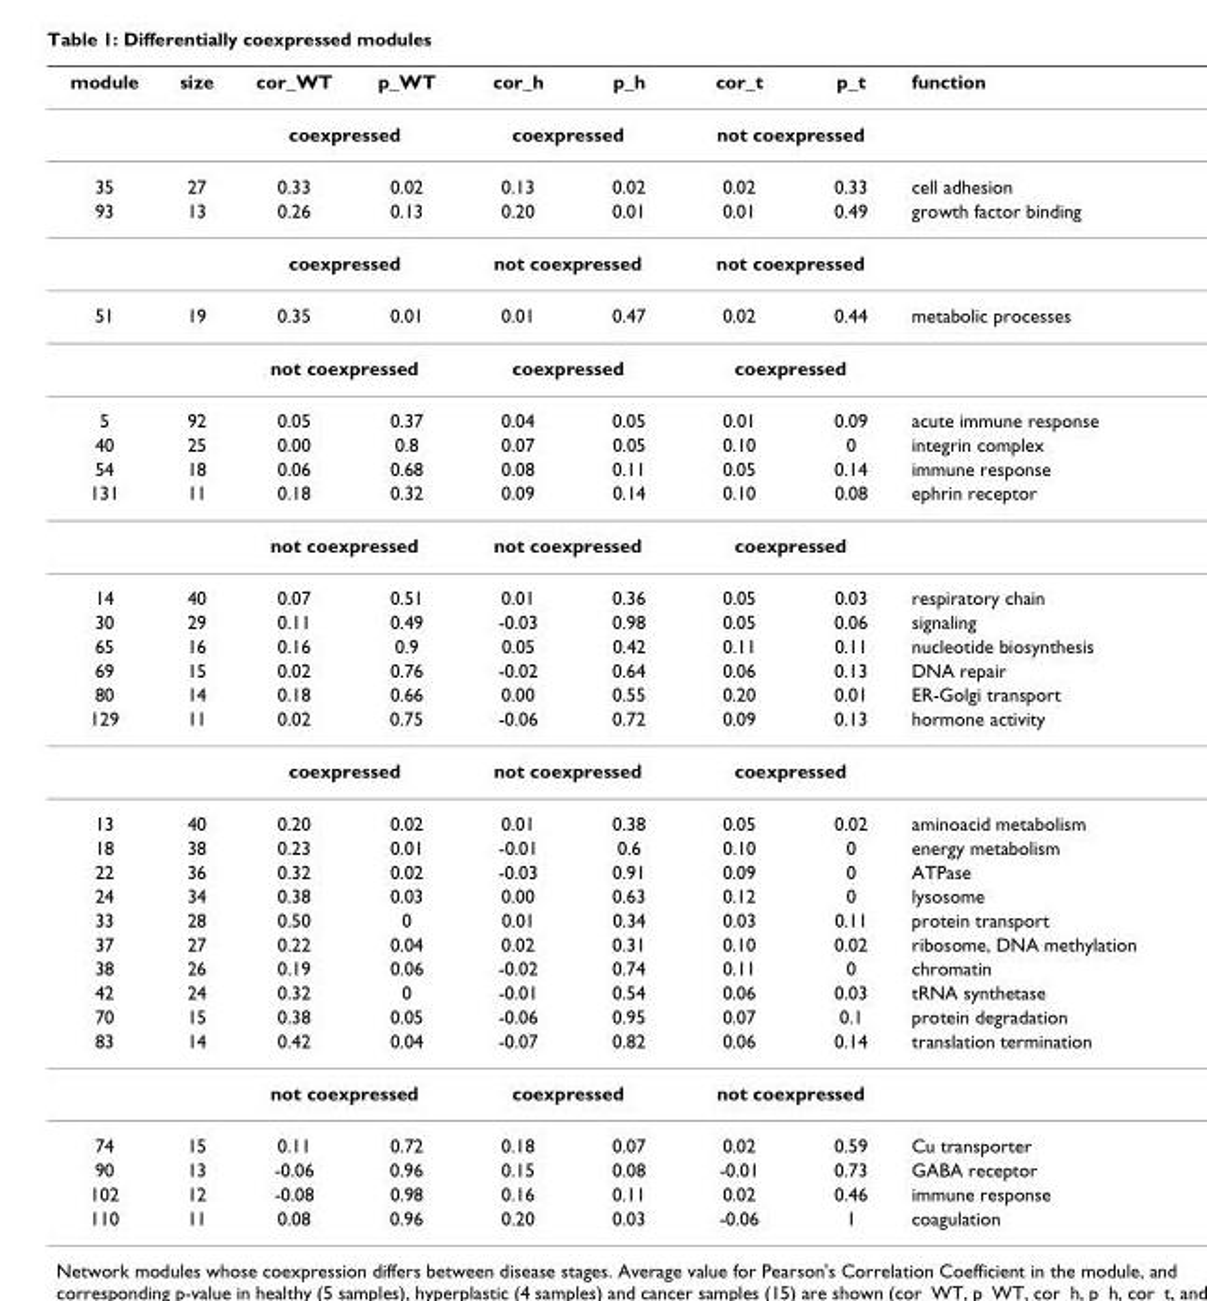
<table><thead><tr><td>module</td><td>size</td><td>cor_WT</td><td>p_WT</td><td>cor_h</td><td>p_h</td><td>cor_t</td><td>p_t</td><td>function</td></tr></thead><tbody><tr><td></td><td></td><td colspan="2">coexpressed</td><td colspan="2">coexpressed</td><td colspan="2">not coexpressed</td><td></td></tr><tr><td>35</td><td>27</td><td>0.33</td><td>0.02</td><td>0.13</td><td>0.02</td><td>0.02</td><td>0.33</td><td>cell adhesion</td></tr><tr><td rowspan="2">93</td><td>13</td><td>0.26</td><td>0.13</td><td>0.20</td><td>0.01</td><td>0.01</td><td>0.49</td><td>growth factor binding</td></tr><tr><td></td><td colspan="2">coexpressed</td><td colspan="2">not coexpressed</td><td colspan="2">not coexpressed</td><td></td></tr><tr><td rowspan="2">51</td><td>19</td><td>0.35</td><td>0.01</td><td>0.01</td><td>0.47</td><td>0.02</td><td>0.44</td><td>metabolic processes</td></tr><tr><td></td><td colspan="2">not coexpressed</td><td colspan="2">coexpressed</td><td colspan="2">coexpressed</td><td></td></tr><tr><td>5</td><td>92</td><td>0.05</td><td>0.37</td><td>0.04</td><td>0.05</td><td>0.01</td><td>0.09</td><td>acute immune response</td></tr><tr><td>40</td><td>25</td><td>0.00</td><td>0.8</td><td>0.07</td><td>0.05</td><td>0.10</td><td>0</td><td>integrin complex</td></tr><tr><td>54</td><td>18</td><td>0.06</td><td>0.68</td><td>0.08</td><td>0.11</td><td>0.05</td><td>0.14</td><td>immune response</td></tr><tr><td rowspan="2">131</td><td>11</td><td>0.18</td><td>0.32</td><td>0.09</td><td>0.14</td><td>0.10</td><td>0.08</td><td>ephrin receptor</td></tr><tr><td></td><td colspan="2">not coexpressed</td><td colspan="2">not coexpressed</td><td colspan="2">coexpressed</td><td></td></tr><tr><td>14</td><td>40</td><td>0.07</td><td>0.51</td><td>0.01</td><td>0.36</td><td>0.05</td><td>0.03</td><td>respiratory chain</td></tr><tr><td>30</td><td>29</td><td>0.11</td><td>0.49</td><td>-0.03</td><td>0.98</td><td>0.05</td><td>0.06</td><td>signaling</td></tr><tr><td>65</td><td>16</td><td>0.16</td><td>0.9</td><td>0.05</td><td>0.42</td><td>0.11</td><td>0.11</td><td>nucleotide biosynthesis</td></tr><tr><td>69</td><td>15</td><td>0.02</td><td>0.76</td><td>-0.02</td><td>0.64</td><td>0.06</td><td>0.13</td><td>DNA repair</td></tr><tr><td>80</td><td>14</td><td>0.18</td><td>0.66</td><td>0.00</td><td>0.55</td><td>0.20</td><td>0.01</td><td>ER-Golgi transport</td></tr><tr><td rowspan="2">129</td><td>11</td><td>0.02</td><td>0.75</td><td>-0.06</td><td>0.72</td><td>0.09</td><td>0.13</td><td>hormone activity</td></tr><tr><td></td><td colspan="2">coexpressed</td><td colspan="2">not coexpressed</td><td colspan="2">coexpressed</td><td></td></tr><tr><td>13</td><td>40</td><td>0.20</td><td>0.02</td><td>0.01</td><td>0.38</td><td>0.05</td><td>0.02</td><td>aminoacid metabolism</td></tr><tr><td>18</td><td>38</td><td>0.23</td><td>0.01</td><td>-0.01</td><td>0.6</td><td>0.10</td><td>0</td><td>energy metabolism</td></tr><tr><td>22</td><td>36</td><td>0.32</td><td>0.02</td><td>-0.03</td><td>0.91</td><td>0.09</td><td>0</td><td>ATPase</td></tr><tr><td>24</td><td>34</td><td>0.38</td><td>0.03</td><td>0.00</td><td>0.63</td><td>0.12</td><td>0</td><td>lysosome</td></tr><tr><td>33</td><td>28</td><td>0.50</td><td>0</td><td>0.01</td><td>0.34</td><td>0.03</td><td>0.11</td><td>protein transport</td></tr><tr><td>37</td><td>27</td><td>0.22</td><td>0.04</td><td>0.02</td><td>0.31</td><td>0.10</td><td>0.02</td><td>ribosome, DNA methylation</td></tr><tr><td>38</td><td>26</td><td>0.19</td><td>0.06</td><td>-0.02</td><td>0.74</td><td>0.11</td><td>0</td><td>chromatin</td></tr><tr><td>42</td><td>24</td><td>0.32</td><td>0</td><td>-0.01</td><td>0.54</td><td>0.06</td><td>0.03</td><td>tRNA synthetase</td></tr><tr><td>70</td><td>15</td><td>0.38</td><td>0.05</td><td>-0.06</td><td>0.95</td><td>0.07</td><td>0.1</td><td>protein degradation</td></tr><tr><td rowspan="2">83</td><td>14</td><td>0.42</td><td>0.04</td><td>-0.07</td><td>0.82</td><td>0.06</td><td>0.14</td><td>translation termination</td></tr><tr><td></td><td colspan="2">not coexpressed</td><td colspan="2">coexpressed</td><td colspan="2">not coexpressed</td><td></td></tr><tr><td>74</td><td>15</td><td>0.11</td><td>0.72</td><td>0.18</td><td>0.07</td><td>0.02</td><td>0.59</td><td>Cu transporter</td></tr><tr><td>90</td><td>13</td><td>-0.06</td><td>0.96</td><td>0.15</td><td>0.08</td><td>-0.01</td><td>0.73</td><td>GABA receptor</td></tr><tr><td>102</td><td>12</td><td>-0.08</td><td>0.98</td><td>0.16</td><td>0.11</td><td>0.02</td><td>0.46</td><td>immune response</td></tr><tr><td>110</td><td>11</td><td>0.08</td><td>0.96</td><td>0.20</td><td>0.03</td><td>-0.06</td><td>1</td><td>coagulation</td></tr></tbody></table>